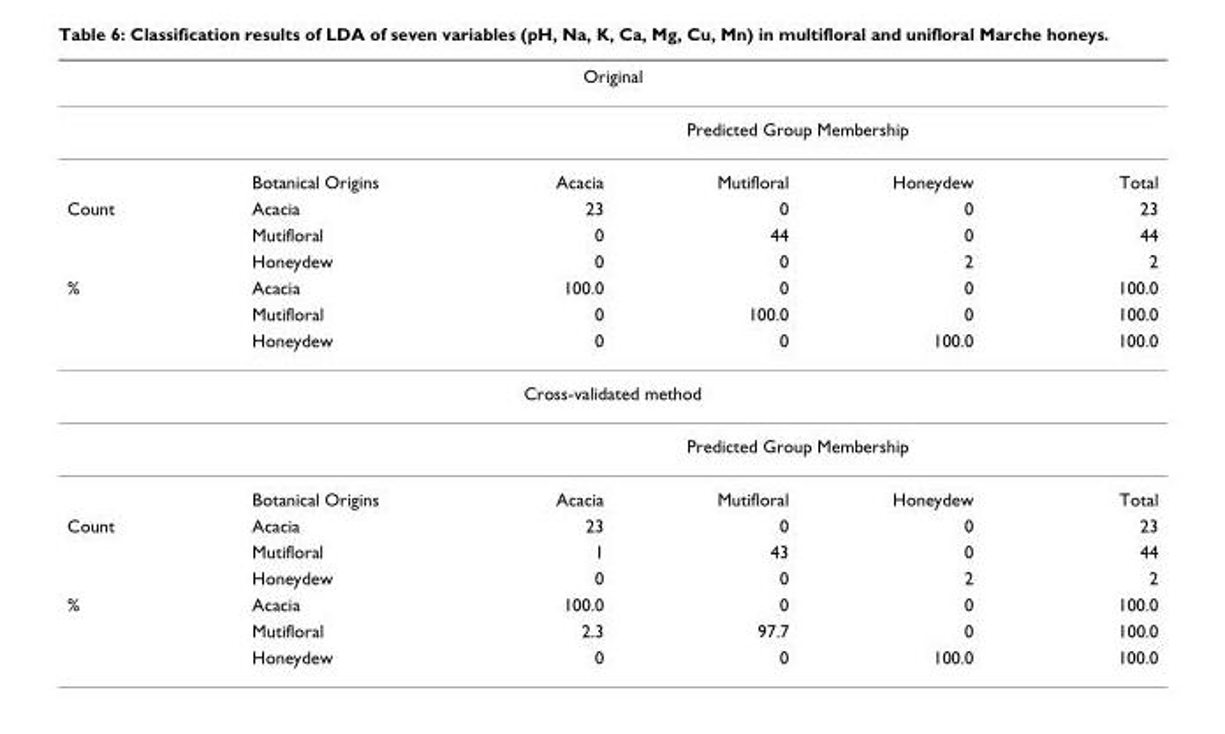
<table><thead><tr><td colspan="6">Original</td></tr><tr><td rowspan="2"></td><td rowspan="2">Botanical Origins</td><td colspan="4">Predicted Group Membership</td></tr><tr><td>Acacia</td><td>Mutifloral</td><td>Honeydew</td><td>Total</td></tr></thead><tbody><tr><td rowspan="3">Count</td><td>Acacia</td><td>23</td><td>0</td><td>0</td><td>23</td></tr><tr><td>Mutifloral</td><td>0</td><td>44</td><td>0</td><td>44</td></tr><tr><td>Honeydew</td><td>0</td><td>0</td><td>2</td><td>2</td></tr><tr><td rowspan="3">%</td><td>Acacia</td><td>100.0</td><td>0</td><td>0</td><td>100.0</td></tr><tr><td>Mutifloral</td><td>0</td><td>100.0</td><td>0</td><td>100.0</td></tr><tr><td>Honeydew</td><td>0</td><td>0</td><td>100.0</td><td>100.0</td></tr><tr><td colspan="6">Cross-validated method</td></tr><tr><td></td><td></td><td colspan="4">Predicted Group Membership</td></tr><tr><td></td><td>Botanical Origins</td><td>Acacia</td><td>Mutifloral</td><td>Honeydew</td><td>Total</td></tr><tr><td rowspan="3">Count</td><td>Acacia</td><td>23</td><td>0</td><td>0</td><td>23</td></tr><tr><td>Mutifloral</td><td>1</td><td>43</td><td>0</td><td>44</td></tr><tr><td>Honeydew</td><td>0</td><td>0</td><td>2</td><td>2</td></tr><tr><td rowspan="3">%</td><td>Acacia</td><td>100.0</td><td>0</td><td>0</td><td>100.0</td></tr><tr><td>Mutifloral</td><td>2.3</td><td>97.7</td><td>0</td><td>100.0</td></tr><tr><td>Honeydew</td><td>0</td><td>0</td><td>100.0</td><td>100.0</td></tr></tbody></table>